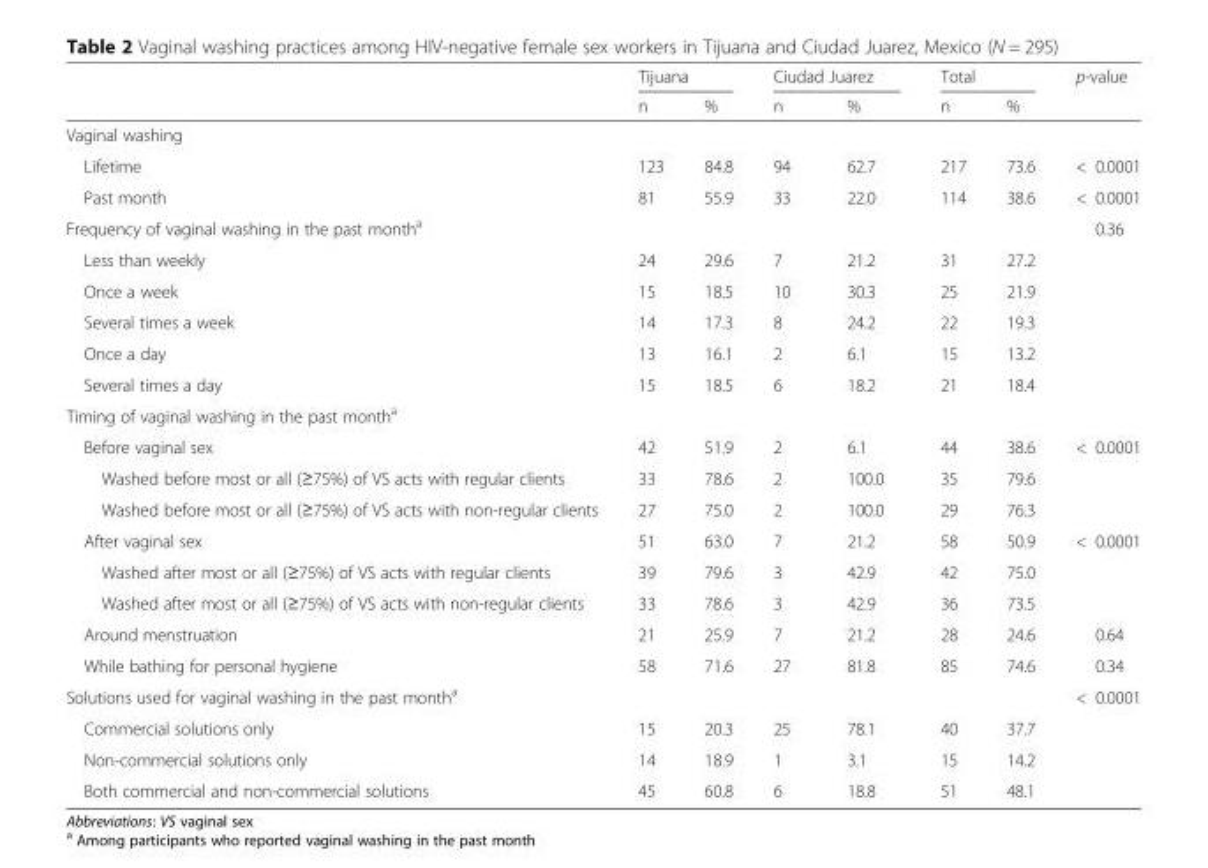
<table><thead><tr><td rowspan="2"></td><td colspan="2">Tijuana</td><td colspan="2">Ciudad Juarez</td><td colspan="2">Total</td><td rowspan="2">p-value</td></tr><tr><td>n</td><td>%</td><td>n</td><td>%</td><td>n</td><td>%</td></tr></thead><tbody><tr><td colspan="8">Vaginal washing</td></tr><tr><td>Lifetime</td><td>123</td><td>84.8</td><td>94</td><td>62.7</td><td>217</td><td>73.6</td><td>&lt; 0.0001</td></tr><tr><td>Past month</td><td>81</td><td>55.9</td><td>33</td><td>22.0</td><td>114</td><td>38.6</td><td>&lt; 0.0001</td></tr><tr><td>Frequency of vaginal washing in the past month<sup>a</sup></td><td></td><td></td><td></td><td></td><td></td><td></td><td>0.36</td></tr><tr><td>Less than weekly</td><td>24</td><td>29.6</td><td>7</td><td>21.2</td><td>31</td><td>27.2</td><td></td></tr><tr><td>Once a week</td><td>15</td><td>18.5</td><td>10</td><td>30.3</td><td>25</td><td>21.9</td><td></td></tr><tr><td>Several times a week</td><td>14</td><td>17.3</td><td>8</td><td>24.2</td><td>22</td><td>19.3</td><td></td></tr><tr><td>Once a day</td><td>13</td><td>16.1</td><td>2</td><td>6.1</td><td>15</td><td>13.2</td><td></td></tr><tr><td>Several times a day</td><td>15</td><td>18.5</td><td>6</td><td>18.2</td><td>21</td><td>18.4</td><td></td></tr><tr><td colspan="8">Timing of vaginal washing in the past month<sup>a</sup></td></tr><tr><td>Before vaginal sex</td><td>42</td><td>51.9</td><td>2</td><td>6.1</td><td>44</td><td>38.6</td><td>&lt; 0.0001</td></tr><tr><td>Washed before most or all (≥75%) of VS acts with regular clients</td><td>33</td><td>78.6</td><td>2</td><td>100.0</td><td>35</td><td>79.6</td><td></td></tr><tr><td>Washed before most or all (≥75%) of VS acts with non-regular clients</td><td>27</td><td>75.0</td><td>2</td><td>100.0</td><td>29</td><td>76.3</td><td></td></tr><tr><td>After vaginal sex</td><td>51</td><td>63.0</td><td>7</td><td>21.2</td><td>58</td><td>50.9</td><td>&lt; 0.0001</td></tr><tr><td>Washed after most or all (≥75%) of VS acts with regular clients</td><td>39</td><td>79.6</td><td>3</td><td>42.9</td><td>42</td><td>75.0</td><td></td></tr><tr><td>Washed after most or all (≥75%) of VS acts with non-regular clients</td><td>33</td><td>78.6</td><td>3</td><td>42.9</td><td>36</td><td>73.5</td><td></td></tr><tr><td>Around menstruation</td><td>21</td><td>25.9</td><td>7</td><td>21.2</td><td>28</td><td>24.6</td><td>0.64</td></tr><tr><td>While bathing for personal hygiene</td><td>58</td><td>71.6</td><td>27</td><td>81.8</td><td>85</td><td>74.6</td><td>0.34</td></tr><tr><td>Solutions used for vaginal washing in the past month<sup>a</sup></td><td></td><td></td><td></td><td></td><td></td><td></td><td>&lt; 0.0001</td></tr><tr><td>Commercial solutions only</td><td>15</td><td>20.3</td><td>25</td><td>78.1</td><td>40</td><td>37.7</td><td></td></tr><tr><td>Non-commercial solutions only</td><td>14</td><td>18.9</td><td>1</td><td>3.1</td><td>15</td><td>14.2</td><td></td></tr><tr><td>Both commercial and non-commercial solutions</td><td>45</td><td>60.8</td><td>6</td><td>18.8</td><td>51</td><td>48.1</td><td></td></tr></tbody></table>